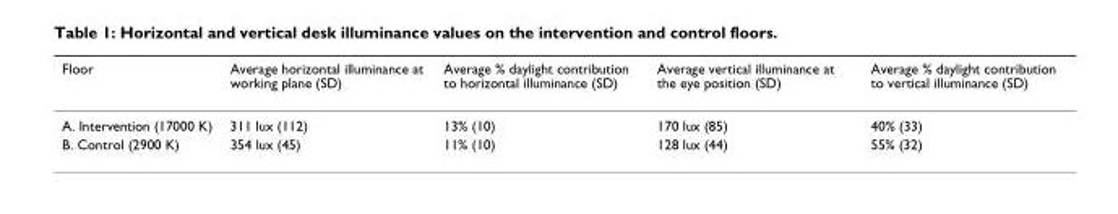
<table><thead><tr><td>Floor</td><td>Average horizontal illuminance at working plane (SD)</td><td>Average % daylight contribution to horizontal illuminance (SD)</td><td>Average vertical illuminance at the eye position (SD)</td><td>Average % daylight contribution to vertical illuminance (SD)</td></tr></thead><tbody><tr><td>A. Intervention (17000 K)</td><td>311 lux (112)</td><td>13% (10)</td><td>170 lux (85)</td><td>40% (33)</td></tr><tr><td>B. Control (2900 K)</td><td>354 lux (45)</td><td>11% (10)</td><td>128 lux (44)</td><td>55% (32)</td></tr></tbody></table>